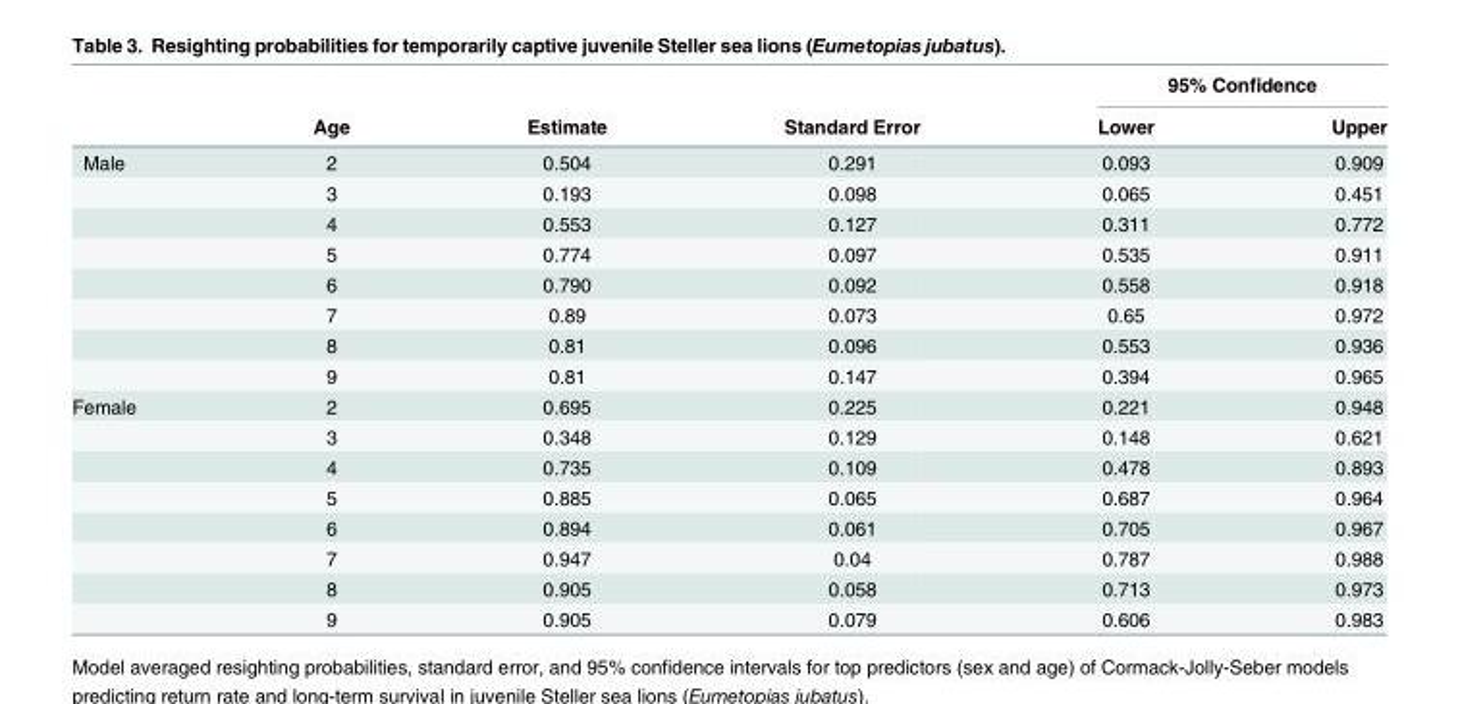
<table><thead><tr><td rowspan="2"></td><td rowspan="2">Age</td><td rowspan="2">Estimate</td><td rowspan="2">Standard Error</td><td colspan="2">95% Confidence</td></tr><tr><td>Lower</td><td>Upper</td></tr></thead><tbody><tr><td rowspan="8">Male</td><td>2</td><td>0.504</td><td>0.291</td><td>0.093</td><td>0.909</td></tr><tr><td>3</td><td>0.193</td><td>0.098</td><td>0.065</td><td>0.451</td></tr><tr><td>4</td><td>0.553</td><td>0.127</td><td>0.311</td><td>0.772</td></tr><tr><td>5</td><td>0.774</td><td>0.097</td><td>0.535</td><td>0.911</td></tr><tr><td>6</td><td>0.790</td><td>0.092</td><td>0.558</td><td>0.918</td></tr><tr><td>7</td><td>0.89</td><td>0.073</td><td>0.65</td><td>0.972</td></tr><tr><td>8</td><td>0.81</td><td>0.096</td><td>0.553</td><td>0.936</td></tr><tr><td>9</td><td>0.81</td><td>0.147</td><td>0.394</td><td>0.965</td></tr><tr><td rowspan="8">Female</td><td>2</td><td>0.695</td><td>0.225</td><td>0.221</td><td>0.948</td></tr><tr><td>3</td><td>0.348</td><td>0.129</td><td>0.148</td><td>0.621</td></tr><tr><td>4</td><td>0.735</td><td>0.109</td><td>0.478</td><td>0.893</td></tr><tr><td>5</td><td>0.885</td><td>0.065</td><td>0.687</td><td>0.964</td></tr><tr><td>6</td><td>0.894</td><td>0.061</td><td>0.705</td><td>0.967</td></tr><tr><td>7</td><td>0.947</td><td>0.04</td><td>0.787</td><td>0.988</td></tr><tr><td>8</td><td>0.905</td><td>0.058</td><td>0.713</td><td>0.973</td></tr><tr><td>9</td><td>0.905</td><td>0.079</td><td>0.606</td><td>0.983</td></tr></tbody></table>